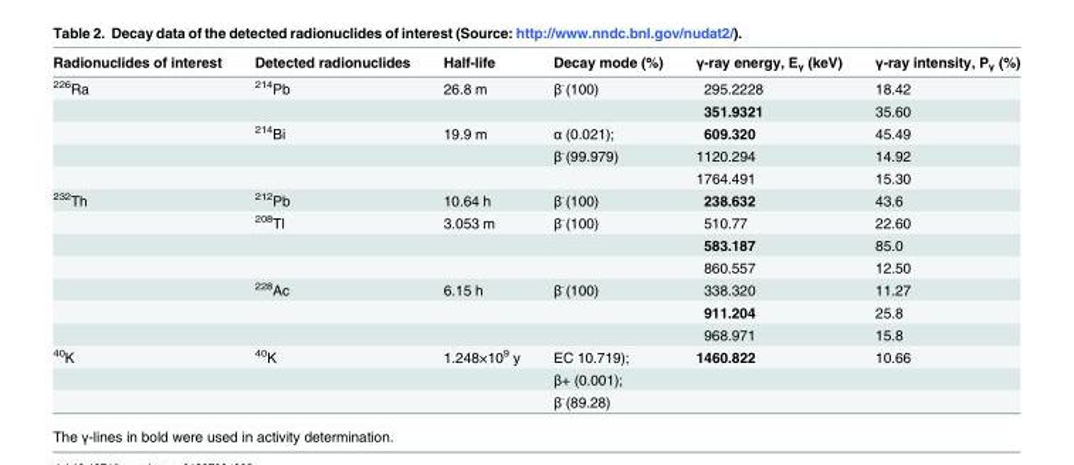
<table><thead><tr><td>Radionuclides of interest</td><td>Detected radionuclides</td><td>Half-life</td><td>Decay mode (%)</td><td>γ-ray energy, E<sub>γ</sub> (keV)</td><td>γ-ray intensity, P<sub>γ</sub> (%)</td></tr></thead><tbody><tr><td rowspan="5"><sup>226</sup>Ra</td><td><sup>214</sup>Pb</td><td>26.8 m</td><td>β¯(100)</td><td>295.2228</td><td>18.42</td></tr><tr><td></td><td></td><td></td><td>351.9321</td><td>35.60</td></tr><tr><td><sup>214</sup>Bi</td><td>19.9 m</td><td>α (0.021);</td><td>609.320</td><td>45.49</td></tr><tr><td></td><td></td><td>β¯(99.979)</td><td>1120.294</td><td>14.92</td></tr><tr><td></td><td></td><td></td><td>1764.491</td><td>15.30</td></tr><tr><td rowspan="7"><sup>232</sup>Th</td><td><sup>212</sup>Pb</td><td>10.64 h</td><td>β¯(100)</td><td>238.632</td><td>43.6</td></tr><tr><td><sup>208</sup>Tl</td><td>3.053 m</td><td>β¯(100)</td><td>510.77</td><td>22.60</td></tr><tr><td></td><td></td><td></td><td>583.187</td><td>85.0</td></tr><tr><td></td><td></td><td></td><td>860.557</td><td>12.50</td></tr><tr><td><sup>228</sup>Ac</td><td>6.15 h</td><td>β¯(100)</td><td>338.320</td><td>11.27</td></tr><tr><td></td><td></td><td></td><td>911.204</td><td>25.8</td></tr><tr><td></td><td></td><td></td><td>968.971</td><td>15.8</td></tr><tr><td rowspan="3"><sup>40</sup>K</td><td><sup>40</sup>K</td><td>1.248×10<sup>9</sup> y</td><td>EC 10.719);</td><td>1460.822</td><td>10.66</td></tr><tr><td></td><td></td><td>β+ (0.001);</td><td></td><td></td></tr><tr><td></td><td></td><td>β¯(89.28)</td><td></td><td></td></tr></tbody></table>